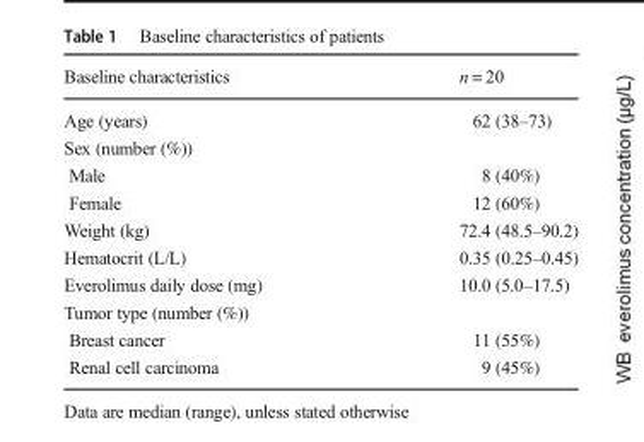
<table><thead><tr><td>Baseline characteristics</td><td>n = 20</td></tr></thead><tbody><tr><td>Age (years)</td><td>62 (38–73)</td></tr><tr><td colspan="2">Sex (number (%))</td></tr><tr><td>Male</td><td>8 (40%)</td></tr><tr><td>Female</td><td>12 (60%)</td></tr><tr><td>Weight (kg)</td><td>72.4 (48.5–90.2)</td></tr><tr><td>Hematocrit (L/L)</td><td>0.35 (0.25–0.45)</td></tr><tr><td>Everolimus daily dose (mg)</td><td>10.0 (5.0–17.5)</td></tr><tr><td colspan="2">Tumor type (number (%))</td></tr><tr><td>Breast cancer</td><td>11 (55%)</td></tr><tr><td>Renal cell carcinoma</td><td>9 (45%)</td></tr></tbody></table>